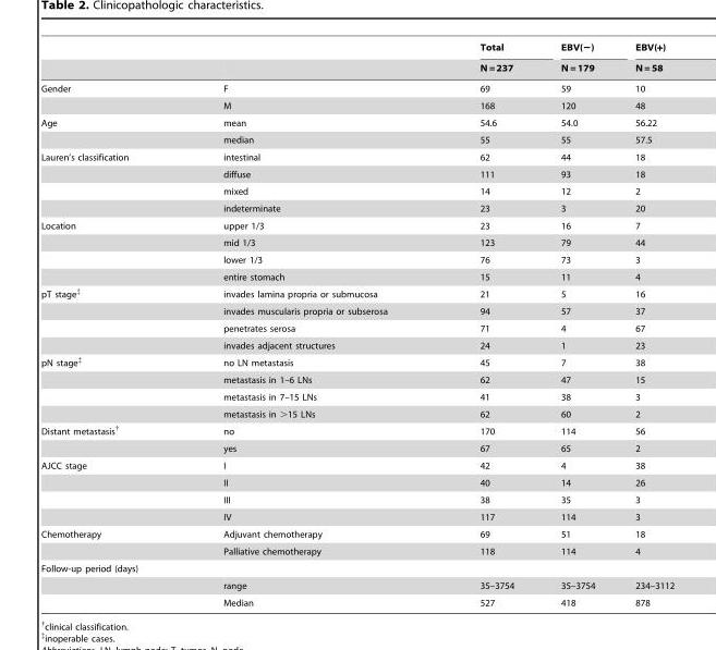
<table><thead><tr><td rowspan="2"></td><td rowspan="2"></td><td rowspan="2">Total N = 237</td><td rowspan="2">EBV(−) N = 179</td><td rowspan="2">EBV(+) N = 58</td></tr><tr></tr></thead><tbody><tr><td rowspan="2">Gender</td><td>F</td><td>69</td><td>59</td><td>10</td></tr><tr><td>M</td><td>168</td><td>120</td><td>48</td></tr><tr><td rowspan="2">Age</td><td>mean</td><td>54.6</td><td>54.0</td><td>56.22</td></tr><tr><td>median</td><td>55</td><td>55</td><td>57.5</td></tr><tr><td rowspan="4">Lauren’s classification</td><td>intestinal</td><td>62</td><td>44</td><td>18</td></tr><tr><td>diffuse</td><td>111</td><td>93</td><td>18</td></tr><tr><td>mixed</td><td>14</td><td>12</td><td>2</td></tr><tr><td>indeterminate</td><td>23</td><td>3</td><td>20</td></tr><tr><td rowspan="4">Location</td><td>upper 1/3</td><td>23</td><td>16</td><td>7</td></tr><tr><td>mid 1/3</td><td>123</td><td>79</td><td>44</td></tr><tr><td>lower 1/3</td><td>76</td><td>73</td><td>3</td></tr><tr><td>entire stomach</td><td>15</td><td>11</td><td>4</td></tr><tr><td rowspan="4">pT stage‡</td><td>invades lamina propria or submucosa</td><td>21</td><td>5</td><td>16</td></tr><tr><td>invades muscularis propria or subserosa</td><td>94</td><td>57</td><td>37</td></tr><tr><td>penetrates serosa</td><td>71</td><td>4</td><td>67</td></tr><tr><td>invades adjacent structures</td><td>24</td><td>1</td><td>23</td></tr><tr><td rowspan="4">pN stage‡</td><td>no LN metastasis</td><td>45</td><td>7</td><td>38</td></tr><tr><td>metastasis in 1–6 LNs</td><td>62</td><td>47</td><td>15</td></tr><tr><td>metastasis in 7–15 LNs</td><td>41</td><td>38</td><td>3</td></tr><tr><td>metastasis in &gt;15 LNs</td><td>62</td><td>60</td><td>2</td></tr><tr><td rowspan="2">Distant metastasis†</td><td>no</td><td>170</td><td>114</td><td>56</td></tr><tr><td>yes</td><td>67</td><td>65</td><td>2</td></tr><tr><td rowspan="4">AJCC stage</td><td>I</td><td>42</td><td>4</td><td>38</td></tr><tr><td>II</td><td>40</td><td>14</td><td>26</td></tr><tr><td>III</td><td>38</td><td>35</td><td>3</td></tr><tr><td>IV</td><td>117</td><td>114</td><td>3</td></tr><tr><td rowspan="2">Chemotherapy</td><td>Adjuvant chemotherapy</td><td>69</td><td>51</td><td>18</td></tr><tr><td>Palliative chemotherapy</td><td>118</td><td>114</td><td>4</td></tr><tr><td colspan="5">Follow-up period (days)</td></tr><tr><td></td><td>range</td><td>35–3754</td><td>35–3754</td><td>234–3112</td></tr><tr><td></td><td>Median</td><td>527</td><td>418</td><td>878</td></tr></tbody></table>